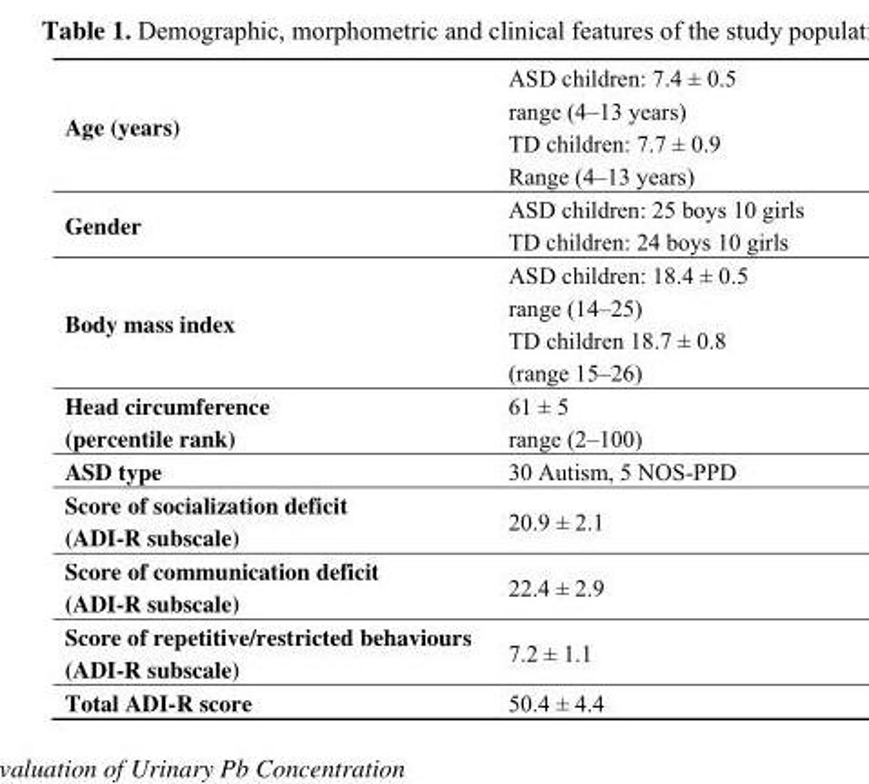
<table><tbody><tr><td rowspan="4">Age (years)</td><td>ASD children: 7.4 ± 0.5</td></tr><tr><td>range (4–13 years)</td></tr><tr><td>TD children: 7.7 ± 0.9</td></tr><tr><td>Range (4–13 years)</td></tr><tr><td rowspan="2">Gender</td><td>ASD children: 25 boys 10 girls</td></tr><tr><td>TD children: 24 boys 10 girls</td></tr><tr><td rowspan="4">Body mass index</td><td>ASD children: 18.4 ± 0.5</td></tr><tr><td>range (14–25)</td></tr><tr><td>TD children 18.7 ± 0.8</td></tr><tr><td>(range 15–26)</td></tr><tr><td rowspan="2">Head circumference (percentile rank)</td><td>61 ± 5</td></tr><tr><td>range (2–100)</td></tr><tr><td>ASD type</td><td>30 Autism, 5 NOS-PPD</td></tr><tr><td>Score of socialization deficit (ADI-R subscale)</td><td>20.9 ± 2.1</td></tr><tr><td>Score of communication deficit (ADI-R subscale)</td><td>22.4 ± 2.9</td></tr><tr><td>Score of repetitive/restricted behaviours (ADI-R subscale)</td><td>7.2 ± 1.1</td></tr><tr><td>Total ADI-R score</td><td>50.4 ± 4.4</td></tr></tbody></table>